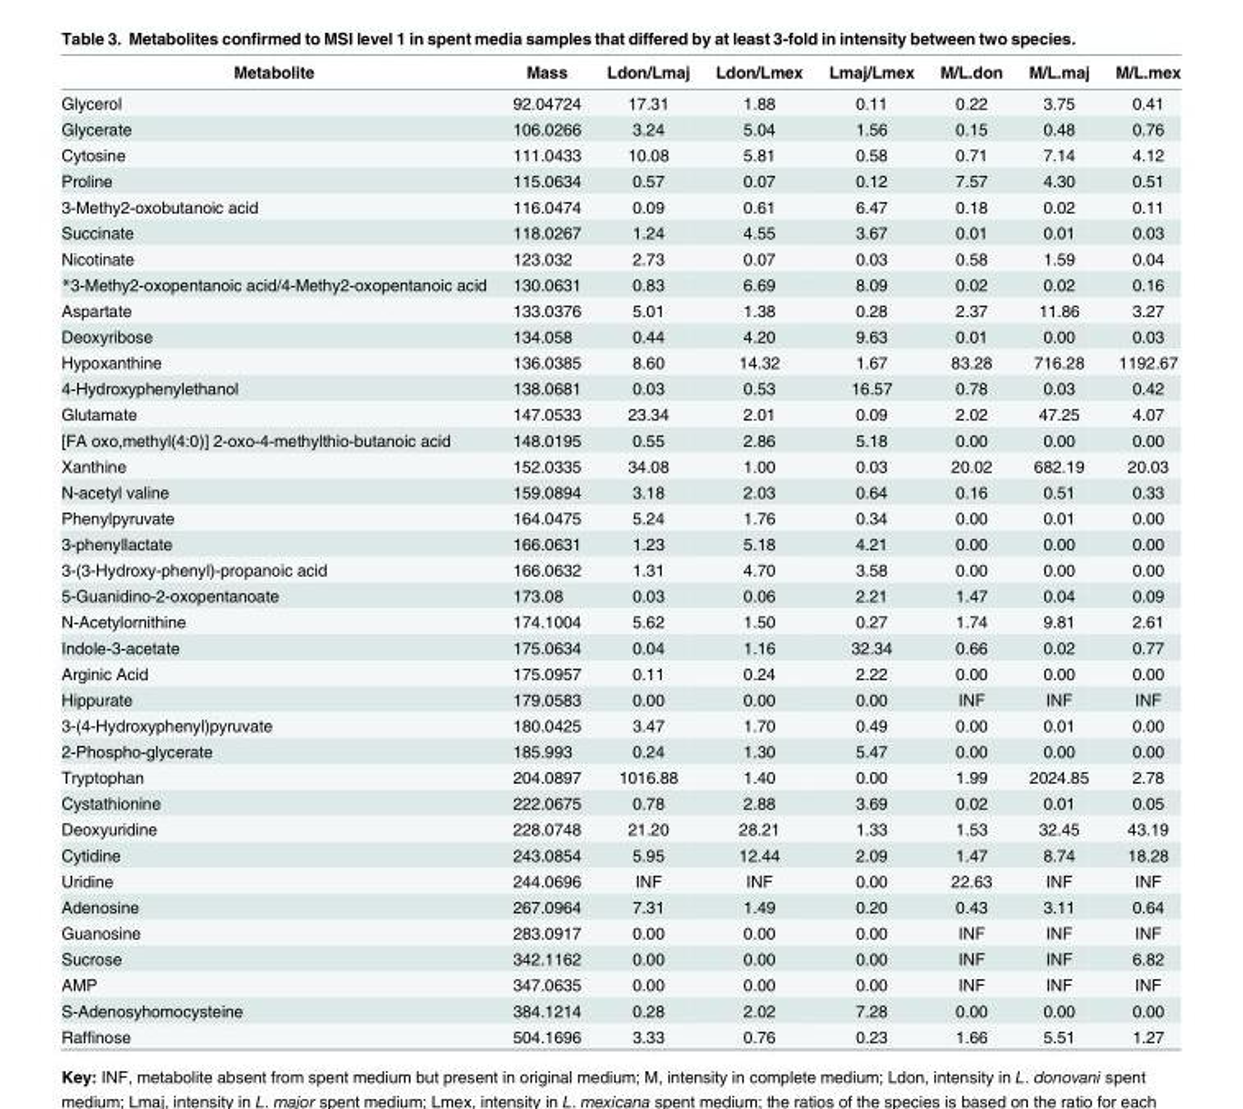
<table><thead><tr><td>Metabolite</td><td>Mass</td><td>Ldon/Lmaj</td><td>Ldon/Lmex</td><td>Lmaj/Lmex</td><td>M/L.don</td><td>M/L.maj</td><td>M/L.mex</td></tr></thead><tbody><tr><td>Glycerol</td><td>92.04724</td><td>17.31</td><td>1.88</td><td>0.11</td><td>0.22</td><td>3.75</td><td>0.41</td></tr><tr><td>Glycerate</td><td>106.0266</td><td>3.24</td><td>5.04</td><td>1.56</td><td>0.15</td><td>0.48</td><td>0.76</td></tr><tr><td>Cytosine</td><td>111.0433</td><td>10.08</td><td>5.81</td><td>0.58</td><td>0.71</td><td>7.14</td><td>4.12</td></tr><tr><td>Proline</td><td>115.0634</td><td>0.57</td><td>0.07</td><td>0.12</td><td>7.57</td><td>4.30</td><td>0.51</td></tr><tr><td>3-Methy2-oxobutanoic acid</td><td>116.0474</td><td>0.09</td><td>0.61</td><td>6.47</td><td>0.18</td><td>0.02</td><td>0.11</td></tr><tr><td>Succinate</td><td>118.0267</td><td>1.24</td><td>4.55</td><td>3.67</td><td>0.01</td><td>0.01</td><td>0.03</td></tr><tr><td>Nicotinate</td><td>123.032</td><td>2.73</td><td>0.07</td><td>0.03</td><td>0.58</td><td>1.59</td><td>0.04</td></tr><tr><td>*3-Methy2-oxopentanoic acid/4-Methy2-oxopentanoic acid</td><td>130.0631</td><td>0.83</td><td>6.69</td><td>8.09</td><td>0.02</td><td>0.02</td><td>0.16</td></tr><tr><td>Aspartate</td><td>133.0376</td><td>5.01</td><td>1.38</td><td>0.28</td><td>2.37</td><td>11.86</td><td>3.27</td></tr><tr><td>Deoxyribose</td><td>134.058</td><td>0.44</td><td>4.20</td><td>9.63</td><td>0.01</td><td>0.00</td><td>0.03</td></tr><tr><td>Hypoxanthine</td><td>136.0385</td><td>8.60</td><td>14.32</td><td>1.67</td><td>83.28</td><td>716.28</td><td>1192.67</td></tr><tr><td>4-Hydroxyphenylethanol</td><td>138.0681</td><td>0.03</td><td>0.53</td><td>16.57</td><td>0.78</td><td>0.03</td><td>0.42</td></tr><tr><td>Glutamate</td><td>147.0533</td><td>23.34</td><td>2.01</td><td>0.09</td><td>2.02</td><td>47.25</td><td>4.07</td></tr><tr><td>[FA oxo,methyl(4:0)] 2-oxo-4-methylthio-butanoic acid</td><td>148.0195</td><td>0.55</td><td>2.86</td><td>5.18</td><td>0.00</td><td>0.00</td><td>0.00</td></tr><tr><td>Xanthine</td><td>152.0335</td><td>34.08</td><td>1.00</td><td>0.03</td><td>20.02</td><td>682.19</td><td>20.03</td></tr><tr><td>N-acetyl valine</td><td>159.0894</td><td>3.18</td><td>2.03</td><td>0.64</td><td>0.16</td><td>0.51</td><td>0.33</td></tr><tr><td>Phenylpyruvate</td><td>164.0475</td><td>5.24</td><td>1.76</td><td>0.34</td><td>0.00</td><td>0.01</td><td>0.00</td></tr><tr><td>3-phenyllactate</td><td>166.0631</td><td>1.23</td><td>5.18</td><td>4.21</td><td>0.00</td><td>0.00</td><td>0.00</td></tr><tr><td>3-(3-Hydroxy-phenyl)-propanoic acid</td><td>166.0632</td><td>1.31</td><td>4.70</td><td>3.58</td><td>0.00</td><td>0.00</td><td>0.00</td></tr><tr><td>5-Guanidino-2-oxopentanoate</td><td>173.08</td><td>0.03</td><td>0.06</td><td>2.21</td><td>1.47</td><td>0.04</td><td>0.09</td></tr><tr><td>N-Acetylornithine</td><td>174.1004</td><td>5.62</td><td>1.50</td><td>0.27</td><td>1.74</td><td>9.81</td><td>2.61</td></tr><tr><td>Indole-3-acetate</td><td>175.0634</td><td>0.04</td><td>1.16</td><td>32.34</td><td>0.66</td><td>0.02</td><td>0.77</td></tr><tr><td>Arginic Acid</td><td>175.0957</td><td>0.11</td><td>0.24</td><td>2.22</td><td>0.00</td><td>0.00</td><td>0.00</td></tr><tr><td>Hippurate</td><td>179.0583</td><td>0.00</td><td>0.00</td><td>0.00</td><td>INF</td><td>INF</td><td>INF</td></tr><tr><td>3-(4-Hydroxyphenyl)pyruvate</td><td>180.0425</td><td>3.47</td><td>1.70</td><td>0.49</td><td>0.00</td><td>0.01</td><td>0.00</td></tr><tr><td>2-Phospho-glycerate</td><td>185.993</td><td>0.24</td><td>1.30</td><td>5.47</td><td>0.00</td><td>0.00</td><td>0.00</td></tr><tr><td>Tryptophan</td><td>204.0897</td><td>1016.88</td><td>1.40</td><td>0.00</td><td>1.99</td><td>2024.85</td><td>2.78</td></tr><tr><td>Cystathionine</td><td>222.0675</td><td>0.78</td><td>2.88</td><td>3.69</td><td>0.02</td><td>0.01</td><td>0.05</td></tr><tr><td>Deoxyuridine</td><td>228.0748</td><td>21.20</td><td>28.21</td><td>1.33</td><td>1.53</td><td>32.45</td><td>43.19</td></tr><tr><td>Cytidine</td><td>243.0854</td><td>5.95</td><td>12.44</td><td>2.09</td><td>1.47</td><td>8.74</td><td>18.28</td></tr><tr><td>Uridine</td><td>244.0696</td><td>INF</td><td>INF</td><td>0.00</td><td>22.63</td><td>INF</td><td>INF</td></tr><tr><td>Adenosine</td><td>267.0964</td><td>7.31</td><td>1.49</td><td>0.20</td><td>0.43</td><td>3.11</td><td>0.64</td></tr><tr><td>Guanosine</td><td>283.0917</td><td>0.00</td><td>0.00</td><td>0.00</td><td>INF</td><td>INF</td><td>INF</td></tr><tr><td>Sucrose</td><td>342.1162</td><td>0.00</td><td>0.00</td><td>0.00</td><td>INF</td><td>INF</td><td>6.82</td></tr><tr><td>AMP</td><td>347.0635</td><td>0.00</td><td>0.00</td><td>0.00</td><td>INF</td><td>INF</td><td>INF</td></tr><tr><td>S-Adenosyhomocysteine</td><td>384.1214</td><td>0.28</td><td>2.02</td><td>7.28</td><td>0.00</td><td>0.00</td><td>0.00</td></tr><tr><td>Raffinose</td><td>504.1696</td><td>3.33</td><td>0.76</td><td>0.23</td><td>1.66</td><td>5.51</td><td>1.27</td></tr></tbody></table>